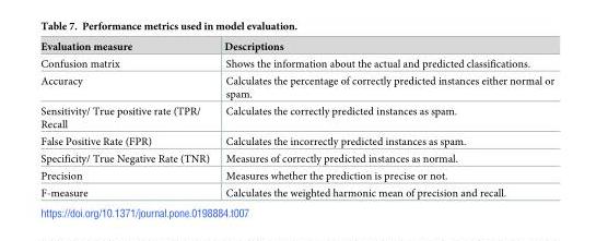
<table><thead><tr><td>Evaluation measure</td><td>Descriptions</td></tr></thead><tbody><tr><td>Confusion matrix</td><td>Shows the information about the actual and predicted classifications.</td></tr><tr><td>Accuracy</td><td>Calculates the percentage of correctly predicted instances either normal or spam.</td></tr><tr><td>Sensitivity/ True positive rate (TPR/ Recall</td><td>Calculates the correctly predicted instances as spam.</td></tr><tr><td>False Positive Rate (FPR)</td><td>Calculates the incorrectly predicted instances as spam.</td></tr><tr><td>Specificity/ True Negative Rate (TNR)</td><td>Measures of correctly predicted instances as normal.</td></tr><tr><td>Precision</td><td>Measures whether the prediction is precise or not.</td></tr><tr><td>F-measure</td><td>Calculates the weighted harmonic mean of precision and recall.</td></tr></tbody></table>